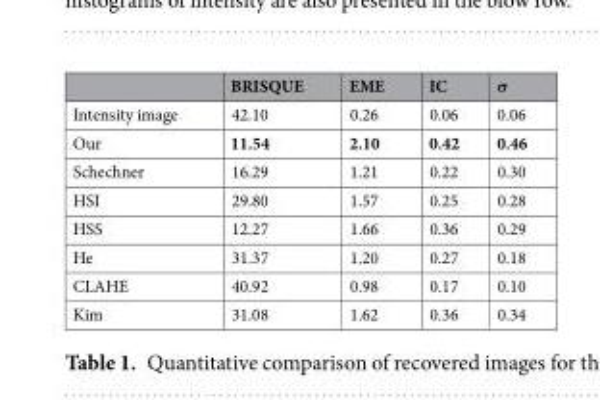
<table><thead><tr><td></td><td>BRISQUE</td><td>EME</td><td>IC</td><td>σ</td></tr></thead><tbody><tr><td>Intensity image</td><td>42.10</td><td>0.26</td><td>0.06</td><td>0.06</td></tr><tr><td>Our</td><td>11.54</td><td>2.10</td><td>0.42</td><td>0.46</td></tr><tr><td>Schechner</td><td>16.29</td><td>1.21</td><td>0.22</td><td>0.30</td></tr><tr><td>HSI</td><td>29.80</td><td>1.57</td><td>0.25</td><td>0.28</td></tr><tr><td>HSS</td><td>12.27</td><td>1.66</td><td>0.36</td><td>0.29</td></tr><tr><td>He</td><td>31.37</td><td>1.20</td><td>0.27</td><td>0.18</td></tr><tr><td>CLAHE</td><td>40.92</td><td>0.98</td><td>0.17</td><td>0.10</td></tr><tr><td>Kim</td><td>31.08</td><td>1.62</td><td>0.36</td><td>0.34</td></tr></tbody></table>